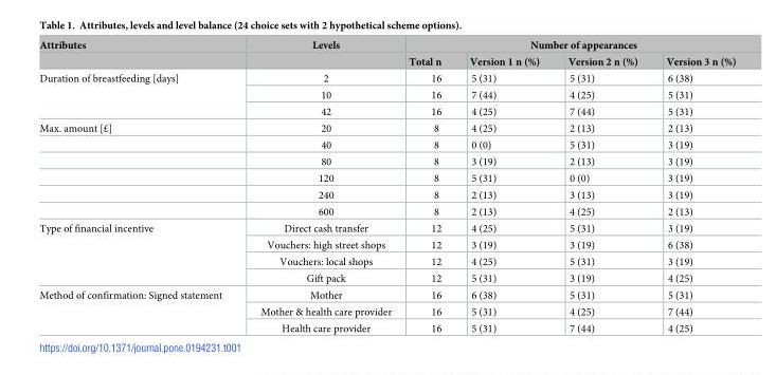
<table><thead><tr><td rowspan="2">Attributes</td><td rowspan="2">Levels</td><td colspan="4">Number of appearances</td></tr><tr><td>Total n</td><td>Version 1 n (%)</td><td>Version 2 n (%)</td><td>Version 3 n (%)</td></tr></thead><tbody><tr><td rowspan="3">Duration of breastfeeding [days]</td><td>2</td><td>16</td><td>5 (31)</td><td>5 (31)</td><td>6 (38)</td></tr><tr><td>10</td><td>16</td><td>7 (44)</td><td>4 (25)</td><td>5 (31)</td></tr><tr><td>42</td><td>16</td><td>4 (25)</td><td>7 (44)</td><td>5 (31)</td></tr><tr><td rowspan="6">Max. amount [£]</td><td>20</td><td>8</td><td>4 (25)</td><td>2 (13)</td><td>2 (13)</td></tr><tr><td>40</td><td>8</td><td>0 (0)</td><td>5 (31)</td><td>3 (19)</td></tr><tr><td>80</td><td>8</td><td>3 (19)</td><td>2 (13)</td><td>3 (19)</td></tr><tr><td>120</td><td>8</td><td>5 (31)</td><td>0 (0)</td><td>3 (19)</td></tr><tr><td>240</td><td>8</td><td>2 (13)</td><td>3 (13)</td><td>3 (19)</td></tr><tr><td>600</td><td>8</td><td>2 (13)</td><td>4 (25)</td><td>2 (13)</td></tr><tr><td rowspan="4">Type of financial incentive</td><td>Direct cash transfer</td><td>12</td><td>4 (25)</td><td>5 (31)</td><td>3 (19)</td></tr><tr><td>Vouchers: high street shops</td><td>12</td><td>3 (19)</td><td>3 (19)</td><td>6 (38)</td></tr><tr><td>Vouchers: local shops</td><td>12</td><td>4 (25)</td><td>5 (31)</td><td>3 (19)</td></tr><tr><td>Gift pack</td><td>12</td><td>5 (31)</td><td>3 (19)</td><td>4 (25)</td></tr><tr><td rowspan="3">Method of confirmation: Signed statement</td><td>Mother</td><td>16</td><td>6 (38)</td><td>5 (31)</td><td>5 (31)</td></tr><tr><td>Mother &amp; health care provider</td><td>16</td><td>5 (31)</td><td>4 (25)</td><td>7 (44)</td></tr><tr><td>Health care provider</td><td>16</td><td>5 (31)</td><td>7 (44)</td><td>4 (25)</td></tr></tbody></table>